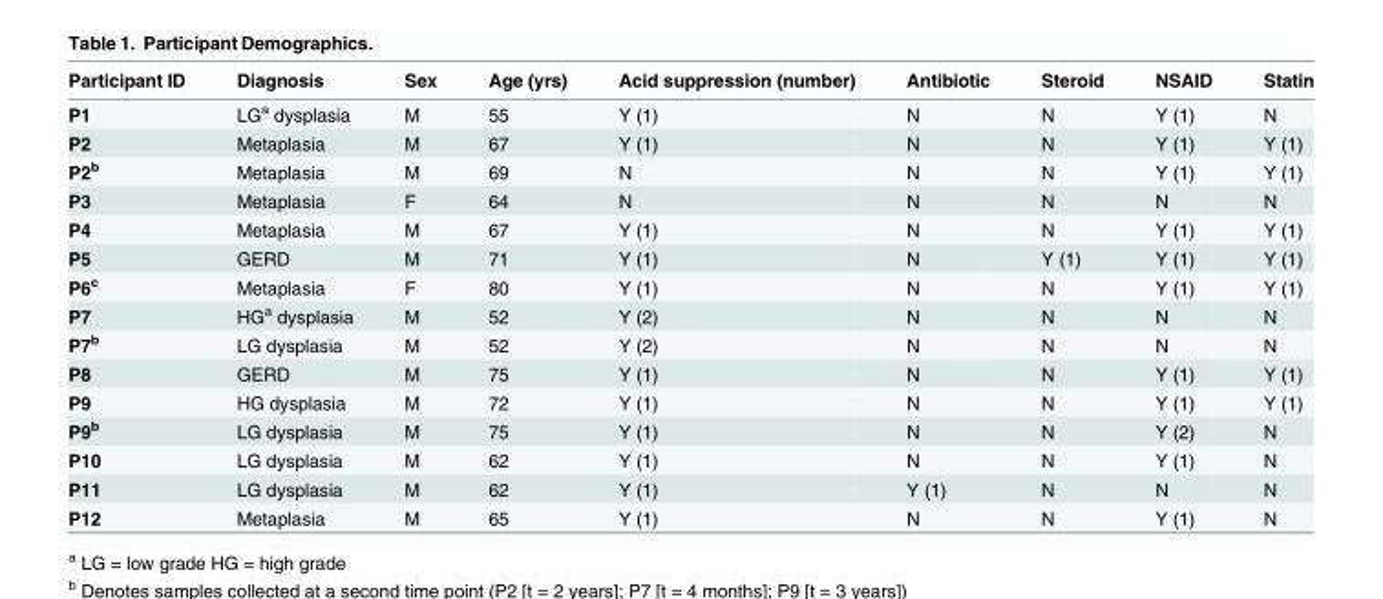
<table><thead><tr><td>Participant ID</td><td>Diagnosis</td><td>Sex</td><td>Age (yrs)</td><td>Acid suppression (number)</td><td>Antibiotic</td><td>Steroid</td><td>NSAID</td><td>Statin</td></tr></thead><tbody><tr><td>P1</td><td>LG<sup>a</sup> dysplasia</td><td>M</td><td>55</td><td>Y (1)</td><td>N</td><td>N</td><td>Y (1)</td><td>N</td></tr><tr><td>P2</td><td>Metaplasia</td><td>M</td><td>67</td><td>Y (1)</td><td>N</td><td>N</td><td>Y (1)</td><td>Y (1)</td></tr><tr><td>P2<sup>b</sup></td><td>Metaplasia</td><td>M</td><td>69</td><td>N</td><td>N</td><td>N</td><td>Y (1)</td><td>Y (1)</td></tr><tr><td>P3</td><td>Metaplasia</td><td>F</td><td>64</td><td>N</td><td>N</td><td>N</td><td>N</td><td>N</td></tr><tr><td>P4</td><td>Metaplasia</td><td>M</td><td>67</td><td>Y (1)</td><td>N</td><td>N</td><td>Y (1)</td><td>Y (1)</td></tr><tr><td>P5</td><td>GERD</td><td>M</td><td>71</td><td>Y (1)</td><td>N</td><td>Y (1)</td><td>Y (1)</td><td>Y (1)</td></tr><tr><td>P6<sup>c</sup></td><td>Metaplasia</td><td>F</td><td>80</td><td>Y (1)</td><td>N</td><td>N</td><td>Y (1)</td><td>Y (1)</td></tr><tr><td>P7</td><td>HG<sup>a</sup> dysplasia</td><td>M</td><td>52</td><td>Y (2)</td><td>N</td><td>N</td><td>N</td><td>N</td></tr><tr><td>P7<sup>b</sup></td><td>LG dysplasia</td><td>M</td><td>52</td><td>Y (2)</td><td>N</td><td>N</td><td>N</td><td>N</td></tr><tr><td>P8</td><td>GERD</td><td>M</td><td>75</td><td>Y (1)</td><td>N</td><td>N</td><td>Y (1)</td><td>Y (1)</td></tr><tr><td>P9</td><td>HG dysplasia</td><td>M</td><td>72</td><td>Y (1)</td><td>N</td><td>N</td><td>Y (1)</td><td>Y (1)</td></tr><tr><td>P9<sup>b</sup></td><td>LG dysplasia</td><td>M</td><td>75</td><td>Y (1)</td><td>N</td><td>N</td><td>Y (2)</td><td>N</td></tr><tr><td>P10</td><td>LG dysplasia</td><td>M</td><td>62</td><td>Y (1)</td><td>N</td><td>N</td><td>Y (1)</td><td>N</td></tr><tr><td>P11</td><td>LG dysplasia</td><td>M</td><td>62</td><td>Y (1)</td><td>Y (1)</td><td>N</td><td>N</td><td>N</td></tr><tr><td>P12</td><td>Metaplasia</td><td>M</td><td>65</td><td>Y (1)</td><td>N</td><td>N</td><td>Y (1)</td><td>N</td></tr></tbody></table>